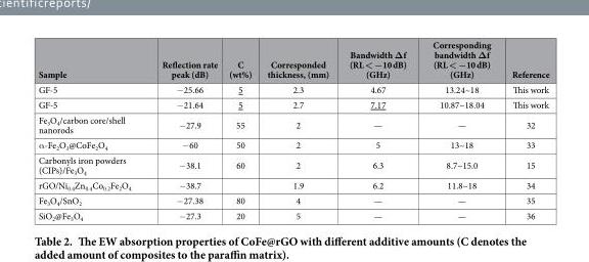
<table><thead><tr><td>Sample</td><td>Reflection rate peak (dB)</td><td>C (wt%)</td><td>Corresponded thickness, (mm)</td><td>Bandwidth Δf (RL &lt; −10 dB) (GHz)</td><td>Corresponding bandwidth Δf (RL &lt; −10 dB) (GHz)</td><td>Reference</td></tr></thead><tbody><tr><td>GF-5</td><td>− 25.66</td><td>5</td><td>2.3</td><td>4.67</td><td>13.24~18</td><td>This work</td></tr><tr><td>GF-5</td><td>− 21.64</td><td>5</td><td>2.7</td><td>7.17</td><td>10.87~18.04</td><td>This work</td></tr><tr><td>Fe<sub>3</sub>O<sub>4</sub>/carbon core/shell nanorods</td><td>− 27.9</td><td>55</td><td>2</td><td>—</td><td>—</td><td>32</td></tr><tr><td>α -Fe2O3@CoFe2O4</td><td>− 60</td><td>50</td><td>2</td><td>5</td><td>13~18</td><td>33</td></tr><tr><td>Carbonyls iron powders (CIPs)/Fe<sub>3</sub>O<sub>4</sub></td><td>− 38.1</td><td>60</td><td>2</td><td>6.3</td><td>8.7~15.0</td><td>15</td></tr><tr><td>rGO/Ni<sub>0.4</sub>Zn<sub>0.4</sub>Co<sub>0.2</sub>Fe<sub>2</sub>O<sub>4</sub></td><td>− 38.7</td><td></td><td>1.9</td><td>6.2</td><td>11.8~18</td><td>34</td></tr><tr><td>Fe<sub>3</sub>O<sub>4</sub>/SnO<sub>2</sub></td><td>− 27.38</td><td>80</td><td>4</td><td>—</td><td>—</td><td>35</td></tr><tr><td>SiO<sub>2</sub>@Fe<sub>3</sub>O<sub>4</sub></td><td>− 27.3</td><td>20</td><td>5</td><td>—</td><td>—</td><td>36</td></tr></tbody></table>